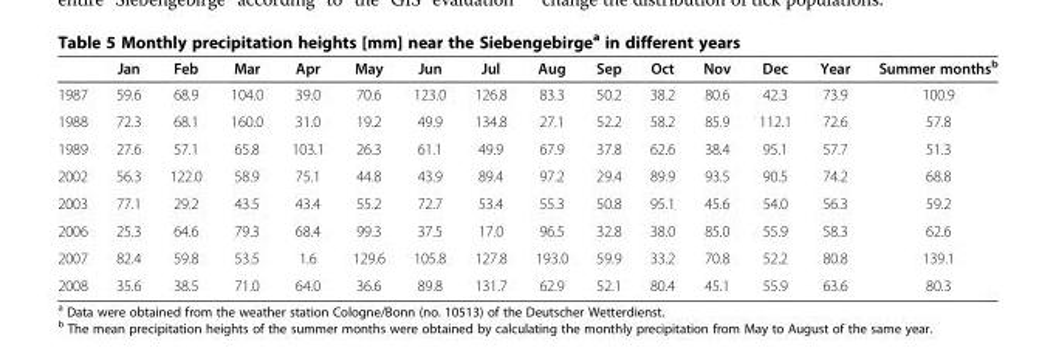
<table><thead><tr><td></td><td>Jan</td><td>Feb</td><td>Mar</td><td>Apr</td><td>May</td><td>Jun</td><td>Jul</td><td>Aug</td><td>Sep</td><td>Oct</td><td>Nov</td><td>Dec</td><td>Year</td><td>Summer months<sup>b</sup></td></tr></thead><tbody><tr><td>1987</td><td>59.6</td><td>68.9</td><td>104.0</td><td>39.0</td><td>70.6</td><td>123.0</td><td>126.8</td><td>83.3</td><td>50.2</td><td>38.2</td><td>80.6</td><td>42.3</td><td>73.9</td><td>100.9</td></tr><tr><td>1988</td><td>72.3</td><td>68.1</td><td>160.0</td><td>31.0</td><td>19.2</td><td>49.9</td><td>134.8</td><td>27.1</td><td>52.2</td><td>58.2</td><td>85.9</td><td>112.1</td><td>72.6</td><td>57.8</td></tr><tr><td>1989</td><td>27.6</td><td>57.1</td><td>65.8</td><td>103.1</td><td>26.3</td><td>61.1</td><td>49.9</td><td>67.9</td><td>37.8</td><td>62.6</td><td>38.4</td><td>95.1</td><td>57.7</td><td>51.3</td></tr><tr><td>2002</td><td>56.3</td><td>122.0</td><td>58.9</td><td>75.1</td><td>44.8</td><td>43.9</td><td>89.4</td><td>97.2</td><td>29.4</td><td>89.9</td><td>93.5</td><td>90.5</td><td>74.2</td><td>68.8</td></tr><tr><td>2003</td><td>77.1</td><td>29.2</td><td>43.5</td><td>43.4</td><td>55.2</td><td>72.7</td><td>53.4</td><td>55.3</td><td>50.8</td><td>95.1</td><td>45.6</td><td>54.0</td><td>56.3</td><td>59.2</td></tr><tr><td>2006</td><td>25.3</td><td>64.6</td><td>79.3</td><td>68.4</td><td>99.3</td><td>37.5</td><td>17.0</td><td>96.5</td><td>32.8</td><td>38.0</td><td>85.0</td><td>55.9</td><td>58.3</td><td>62.6</td></tr><tr><td>2007</td><td>82.4</td><td>59.8</td><td>53.5</td><td>1.6</td><td>129.6</td><td>105.8</td><td>127.8</td><td>193.0</td><td>59.9</td><td>33.2</td><td>70.8</td><td>52.2</td><td>80.8</td><td>139.1</td></tr><tr><td>2008</td><td>35.6</td><td>38.5</td><td>71.0</td><td>64.0</td><td>36.6</td><td>89.8</td><td>131.7</td><td>62.9</td><td>52.1</td><td>80.4</td><td>45.1</td><td>55.9</td><td>63.6</td><td>80.3</td></tr></tbody></table>